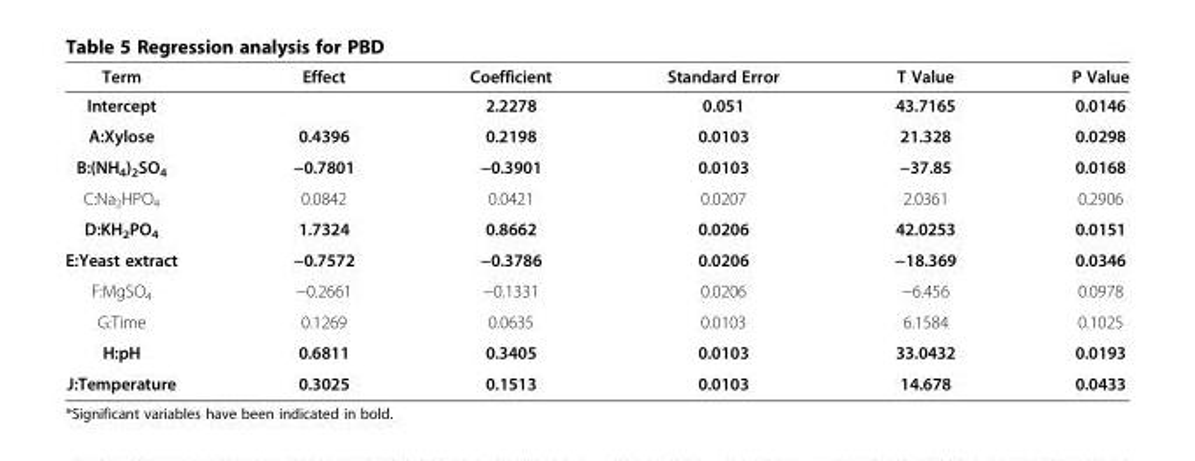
<table><thead><tr><td>Term</td><td>Effect</td><td>Coefficient</td><td>Standard Error</td><td>T Value</td><td>P Value</td></tr></thead><tbody><tr><td>Intercept</td><td></td><td>2.2278</td><td>0.051</td><td>43.7165</td><td>0.0146</td></tr><tr><td>A:Xylose</td><td>0.4396</td><td>0.2198</td><td>0.0103</td><td>21.328</td><td>0.0298</td></tr><tr><td>B:(NH<sub>4</sub>)<sub>2</sub>SO<sub>4</sub></td><td>−0.7801</td><td>−0.3901</td><td>0.0103</td><td>−37.85</td><td>0.0168</td></tr><tr><td>C:Na<sub>2</sub>HPO<sub>4</sub></td><td>0.0842</td><td>0.0421</td><td>0.0207</td><td>2.0361</td><td>0.2906</td></tr><tr><td>D:KH<sub>2</sub>PO<sub>4</sub></td><td>1.7324</td><td>0.8662</td><td>0.0206</td><td>42.0253</td><td>0.0151</td></tr><tr><td>E:Yeast extract</td><td>−0.7572</td><td>−0.3786</td><td>0.0206</td><td>−18.369</td><td>0.0346</td></tr><tr><td>F:MgSO<sub>4</sub></td><td>−0.2661</td><td>−0.1331</td><td>0.0206</td><td>−6.456</td><td>0.0978</td></tr><tr><td>G:Time</td><td>0.1269</td><td>0.0635</td><td>0.0103</td><td>6.1584</td><td>0.1025</td></tr><tr><td>H:pH</td><td>0.6811</td><td>0.3405</td><td>0.0103</td><td>33.0432</td><td>0.0193</td></tr><tr><td>J:Temperature</td><td>0.3025</td><td>0.1513</td><td>0.0103</td><td>14.678</td><td>0.0433</td></tr></tbody></table>